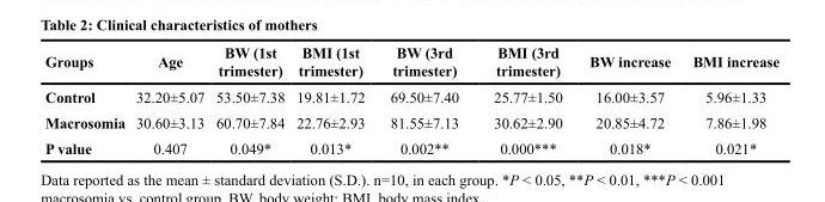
<table><thead><tr><td>Groups</td><td>Age</td><td>BW (1st trimester)</td><td>BMI (1st trimester)</td><td>BW (3rd trimester)</td><td>BMI (3rd trimester)</td><td>BW increase</td><td>BMI increase</td></tr></thead><tbody><tr><td>Control</td><td>32.20±5.07</td><td>53.50±7.38</td><td>19.81±1.72</td><td>69.50±7.40</td><td>25.77±1.50</td><td>16.00±3.57</td><td>5.96±1.33</td></tr><tr><td>Macrosomia</td><td>30.60±3.13</td><td>60.70±7.84</td><td>22.76±2.93</td><td>81.55±7.13</td><td>30.62±2.90</td><td>20.85±4.72</td><td>7.86±1.98</td></tr><tr><td>P value</td><td>0.407</td><td>0.049*</td><td>0.013*</td><td>0.002**</td><td>0.000***</td><td>0.018*</td><td>0.021*</td></tr></tbody></table>